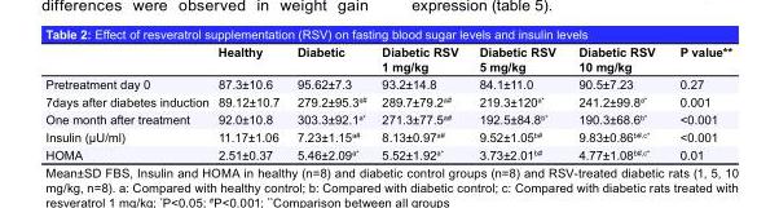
<table><thead><tr><td></td><td>Healthy</td><td>Diabetic</td><td>Diabetic RSV 1 mg/kg</td><td>Diabetic RSV 5 mg/kg</td><td>Diabetic RSV 10 mg/kg</td><td>P value**</td></tr></thead><tbody><tr><td>Pretreatment day 0</td><td>87.3±10.6</td><td>95.62±7.3</td><td>93.2±14.8</td><td>84.1±11.0</td><td>90.5±7.23</td><td>0.27</td></tr><tr><td>7days after diabetes induction</td><td>89.12±10.7</td><td>279.2±95.3<sup>a#</sup></td><td>289.7±79.2<sup>a#</sup></td><td>219.3±120<sup>a*</sup></td><td>241.2±99.8<sup>a*</sup></td><td>0.001</td></tr><tr><td>One month after treatment</td><td>92.0±10.8</td><td>303.3±92.1<sup>a*</sup></td><td>271.3±77.5<sup>a#</sup></td><td>192.5±84.8<sup>b*</sup></td><td>190.3±68.6<sup>b*</sup></td><td>&lt;0.001</td></tr><tr><td>Insulin (μU/ml)</td><td>11.17±1.06</td><td>7.23±1.15<sup>a#</sup></td><td>8.13±0.97<sup>a#</sup></td><td>9.52±1.05<sup>b#</sup></td><td>9.83±0.86<sup>b#,c*</sup></td><td>&lt;0.001</td></tr><tr><td>HOMA</td><td>2.51±0.37</td><td>5.46±2.09<sup>a*</sup></td><td>5.52±1.92<sup>a*</sup></td><td>3.73±2.01<sup>b#</sup></td><td>4.77±1.08<sup>b#,c*</sup></td><td>0.01</td></tr></tbody></table>